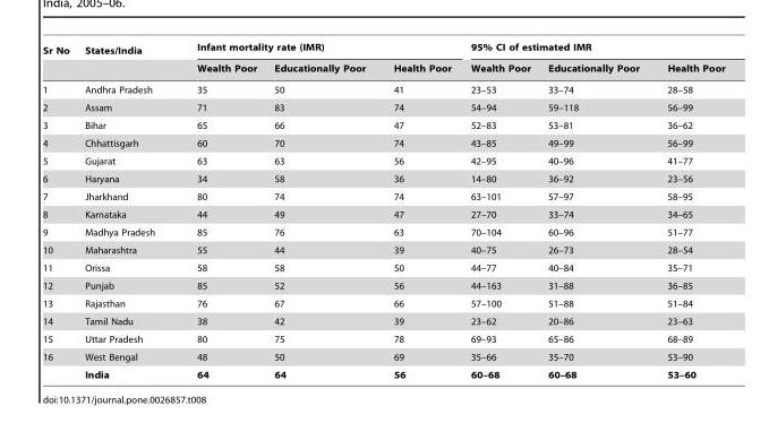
<table><thead><tr><td rowspan="2">Sr No</td><td rowspan="2">States/India</td><td colspan="3">Infant mortality rate (IMR)</td><td colspan="3">95% CI of estimated IMR</td></tr><tr><td>Wealth Poor</td><td>Educationally Poor</td><td>Health Poor</td><td>Wealth Poor</td><td>Educationally Poor</td><td>Health Poor</td></tr></thead><tbody><tr><td>1</td><td>Andhra Pradesh</td><td>35</td><td>50</td><td>41</td><td>23–53</td><td>33–74</td><td>28–58</td></tr><tr><td>2</td><td>Assam</td><td>71</td><td>83</td><td>74</td><td>54–94</td><td>59–118</td><td>56–99</td></tr><tr><td>3</td><td>Bihar</td><td>65</td><td>66</td><td>47</td><td>52–83</td><td>53–81</td><td>36–62</td></tr><tr><td>4</td><td>Chhattisgarh</td><td>60</td><td>70</td><td>74</td><td>43–85</td><td>49–99</td><td>56–99</td></tr><tr><td>5</td><td>Gujarat</td><td>63</td><td>63</td><td>56</td><td>42–95</td><td>40–96</td><td>41–77</td></tr><tr><td>6</td><td>Haryana</td><td>34</td><td>58</td><td>36</td><td>14–80</td><td>36–92</td><td>23–56</td></tr><tr><td>7</td><td>Jharkhand</td><td>80</td><td>74</td><td>74</td><td>63–101</td><td>57–97</td><td>58–95</td></tr><tr><td>8</td><td>Karnataka</td><td>44</td><td>49</td><td>47</td><td>27–70</td><td>33–74</td><td>34–65</td></tr><tr><td>9</td><td>Madhya Pradesh</td><td>85</td><td>76</td><td>63</td><td>70–104</td><td>60–96</td><td>51–77</td></tr><tr><td>10</td><td>Maharashtra</td><td>55</td><td>44</td><td>39</td><td>40–75</td><td>26–73</td><td>28–54</td></tr><tr><td>11</td><td>Orissa</td><td>58</td><td>58</td><td>50</td><td>44–77</td><td>40–84</td><td>35–71</td></tr><tr><td>12</td><td>Punjab</td><td>85</td><td>52</td><td>56</td><td>44–163</td><td>31–88</td><td>36–85</td></tr><tr><td>13</td><td>Rajasthan</td><td>76</td><td>67</td><td>66</td><td>57–100</td><td>51–88</td><td>51–84</td></tr><tr><td>14</td><td>Tamil Nadu</td><td>38</td><td>42</td><td>39</td><td>23–62</td><td>20–86</td><td>23–63</td></tr><tr><td>15</td><td>Uttar Pradesh</td><td>80</td><td>75</td><td>78</td><td>69–93</td><td>65–86</td><td>68–89</td></tr><tr><td rowspan="2">16</td><td>West Bengal</td><td>48</td><td>50</td><td>69</td><td>35–66</td><td>35–70</td><td>53–90</td></tr><tr><td>India</td><td>64</td><td>64</td><td>56</td><td>60–68</td><td>60–68</td><td>53–60</td></tr></tbody></table>